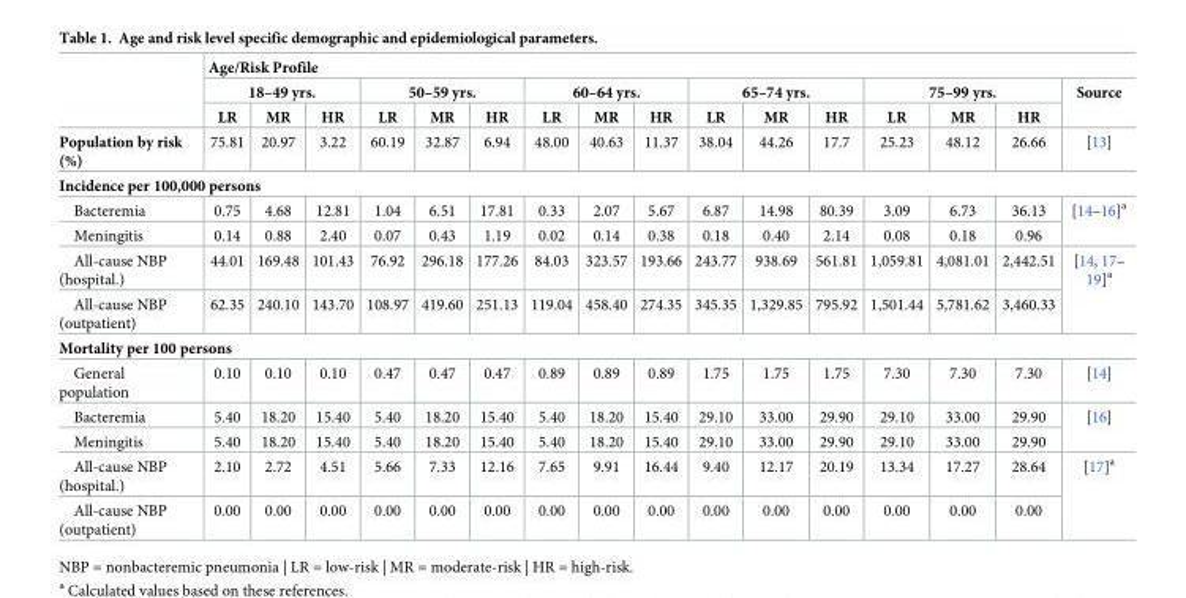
<table><thead><tr><td rowspan="3"></td><td colspan="16">Age/Risk Profile</td></tr><tr><td colspan="3">18–49 yrs.</td><td colspan="3">50–59 yrs.</td><td colspan="3">60–64 yrs.</td><td colspan="3">65–74 yrs.</td><td colspan="3">75–99 yrs.</td><td rowspan="2">Source</td></tr><tr><td>LR</td><td>MR</td><td>HR</td><td>LR</td><td>MR</td><td>HR</td><td>LR</td><td>MR</td><td>HR</td><td>LR</td><td>MR</td><td>HR</td><td>LR</td><td>MR</td><td>HR</td></tr></thead><tbody><tr><td>Population by risk (%)</td><td>75.81</td><td>20.97</td><td>3.22</td><td>60.19</td><td>32.87</td><td>6.94</td><td>48.00</td><td>40.63</td><td>11.37</td><td>38.04</td><td>44.26</td><td>17.7</td><td>25.23</td><td>48.12</td><td>26.66</td><td>[13]</td></tr><tr><td colspan="17">Incidence per 100,000 persons</td></tr><tr><td>Bacteremia</td><td>0.75</td><td>4.68</td><td>12.81</td><td>1.04</td><td>6.51</td><td>17.81</td><td>0.33</td><td>2.07</td><td>5.67</td><td>6.87</td><td>14.98</td><td>80.39</td><td>3.09</td><td>6.73</td><td>36.13</td><td rowspan="2">[14–16]<sup>a</sup></td></tr><tr><td>Meningitis</td><td>0.14</td><td>0.88</td><td>2.40</td><td>0.07</td><td>0.43</td><td>1.19</td><td>0.02</td><td>0.14</td><td>0.38</td><td>0.18</td><td>0.40</td><td>2.14</td><td>0.08</td><td>0.18</td><td>0.96</td></tr><tr><td>All-cause NBP (hospital.)</td><td>44.01</td><td>169.48</td><td>101.43</td><td>76.92</td><td>296.18</td><td>177.26</td><td>84.03</td><td>323.57</td><td>193.66</td><td>243.77</td><td>938.69</td><td>561.81</td><td>1,059.81</td><td>4,081.01</td><td>2,442.51</td><td rowspan="2">[14, 17– 19]<sup>a</sup></td></tr><tr><td>All-cause NBP (outpatient)</td><td>62.35</td><td>240.10</td><td>143.70</td><td>108.97</td><td>419.60</td><td>251.13</td><td>119.04</td><td>458.40</td><td>274.35</td><td>345.35</td><td>1,329.85</td><td>795.92</td><td>1,501.44</td><td>5,781.62</td><td>3,460.33</td></tr><tr><td colspan="17">Mortality per 100 persons</td></tr><tr><td>General population</td><td>0.10</td><td>0.10</td><td>0.10</td><td>0.47</td><td>0.47</td><td>0.47</td><td>0.89</td><td>0.89</td><td>0.89</td><td>1.75</td><td>1.75</td><td>1.75</td><td>7.30</td><td>7.30</td><td>7.30</td><td>[14]</td></tr><tr><td>Bacteremia</td><td>5.40</td><td>18.20</td><td>15.40</td><td>5.40</td><td>18.20</td><td>15.40</td><td>5.40</td><td>18.20</td><td>15.40</td><td>29.10</td><td>33.00</td><td>29.90</td><td>29.10</td><td>33.00</td><td>29.90</td><td rowspan="2">[16]</td></tr><tr><td>Meningitis</td><td>5.40</td><td>18.20</td><td>15.40</td><td>5.40</td><td>18.20</td><td>15.40</td><td>5.40</td><td>18.20</td><td>15.40</td><td>29.10</td><td>33.00</td><td>29.90</td><td>29.10</td><td>33.00</td><td>29.90</td></tr><tr><td>All-cause NBP (hospital.)</td><td>2.10</td><td>2.72</td><td>4.51</td><td>5.66</td><td>7.33</td><td>12.16</td><td>7.65</td><td>9.91</td><td>16.44</td><td>9.40</td><td>12.17</td><td>20.19</td><td>13.34</td><td>17.27</td><td>28.64</td><td rowspan="2">[17]<sup>a</sup></td></tr><tr><td>All-cause NBP (outpatient)</td><td>0.00</td><td>0.00</td><td>0.00</td><td>0.00</td><td>0.00</td><td>0.00</td><td>0.00</td><td>0.00</td><td>0.00</td><td>0.00</td><td>0.00</td><td>0.00</td><td>0.00</td><td>0.00</td><td>0.00</td></tr></tbody></table>